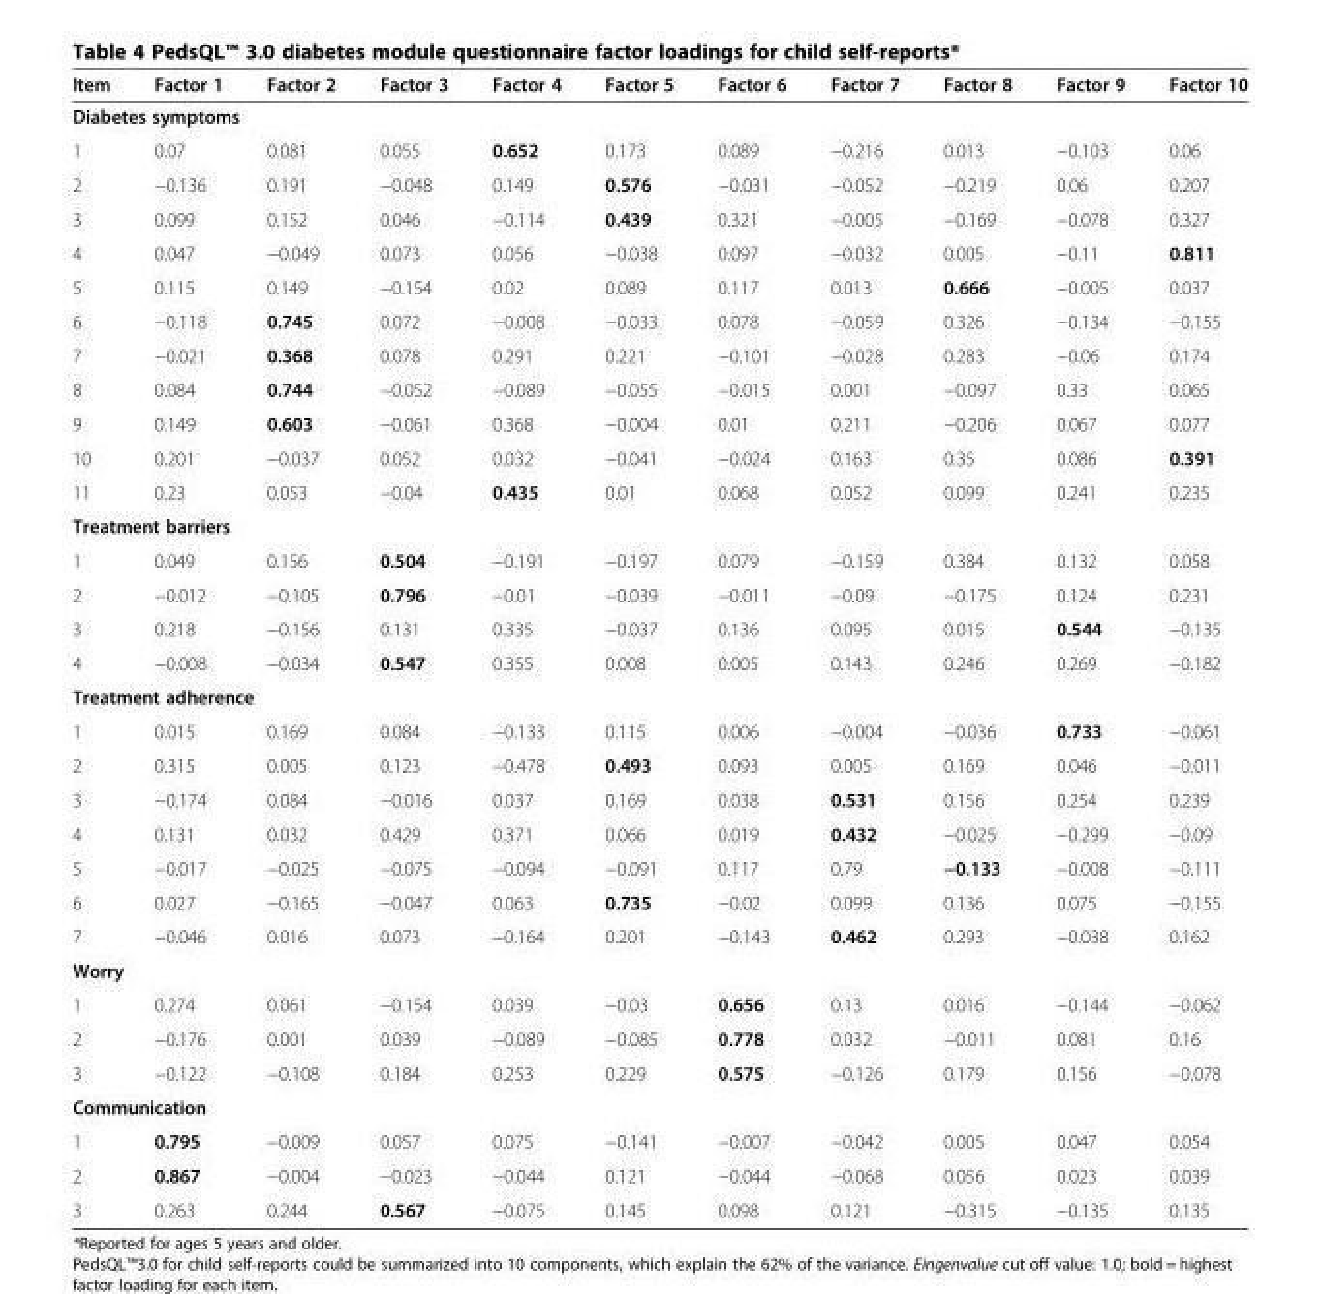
<table><thead><tr><td>Item</td><td>Factor 1</td><td>Factor 2</td><td>Factor 3</td><td>Factor 4</td><td>Factor 5</td><td>Factor 6</td><td>Factor 7</td><td>Factor 8</td><td>Factor 9</td><td>Factor 10</td></tr></thead><tbody><tr><td colspan="11">Diabetes symptoms</td></tr><tr><td>1</td><td>0.07</td><td>0.081</td><td>0.055</td><td>0.652</td><td>0.173</td><td>0.089</td><td>−0.216</td><td>0.013</td><td>−0.103</td><td>0.06</td></tr><tr><td>2</td><td>−0.136</td><td>0.191</td><td>−0.048</td><td>0.149</td><td>0.576</td><td>−0.031</td><td>−0.052</td><td>−0.219</td><td>0.06</td><td>0.207</td></tr><tr><td>3</td><td>0.099</td><td>0.152</td><td>0.046</td><td>−0.114</td><td>0.439</td><td>0.321</td><td>−0.005</td><td>−0.169</td><td>−0.078</td><td>0.327</td></tr><tr><td>4</td><td>0.047</td><td>−0.049</td><td>0.073</td><td>0.056</td><td>−0.038</td><td>0.097</td><td>−0.032</td><td>0.005</td><td>−0.11</td><td>0.811</td></tr><tr><td>5</td><td>0.115</td><td>0.149</td><td>−0.154</td><td>0.02</td><td>0.089</td><td>0.117</td><td>0.013</td><td>0.666</td><td>−0.005</td><td>0.037</td></tr><tr><td>6</td><td>−0.118</td><td>0.745</td><td>0.072</td><td>−0.008</td><td>−0.033</td><td>0.078</td><td>−0.059</td><td>0.326</td><td>−0.134</td><td>−0.155</td></tr><tr><td>7</td><td>−0.021</td><td>0.368</td><td>0.078</td><td>0.291</td><td>0.221</td><td>−0.101</td><td>−0.028</td><td>0.283</td><td>−0.06</td><td>0.174</td></tr><tr><td>8</td><td>0.084</td><td>0.744</td><td>−0.052</td><td>−0.089</td><td>−0.055</td><td>−0.015</td><td>0.001</td><td>−0.097</td><td>0.33</td><td>0.065</td></tr><tr><td>9</td><td>0.149</td><td>0.603</td><td>−0.061</td><td>0.368</td><td>−0.004</td><td>0.01</td><td>0.211</td><td>−0.206</td><td>0.067</td><td>0.077</td></tr><tr><td>10</td><td>0.201</td><td>−0.037</td><td>0.052</td><td>0.032</td><td>−0.041</td><td>−0.024</td><td>0.163</td><td>0.35</td><td>0.086</td><td>0.391</td></tr><tr><td>11</td><td>0.23</td><td>0.053</td><td>−0.04</td><td>0.435</td><td>0.01</td><td>0.068</td><td>0.052</td><td>0.099</td><td>0.241</td><td>0.235</td></tr><tr><td colspan="11">Treatment barriers</td></tr><tr><td>1</td><td>0.049</td><td>0.156</td><td>0.504</td><td>−0.191</td><td>−0.197</td><td>0.079</td><td>−0.159</td><td>0.384</td><td>0.132</td><td>0.058</td></tr><tr><td>2</td><td>−0.012</td><td>−0.105</td><td>0.796</td><td>−0.01</td><td>−0.039</td><td>−0.011</td><td>−0.09</td><td>−0.175</td><td>0.124</td><td>0.231</td></tr><tr><td>3</td><td>0.218</td><td>−0.156</td><td>0.131</td><td>0.335</td><td>−0.037</td><td>0.136</td><td>0.095</td><td>0.015</td><td>0.544</td><td>−0.135</td></tr><tr><td>4</td><td>−0.008</td><td>−0.034</td><td>0.547</td><td>0.355</td><td>0.008</td><td>0.005</td><td>0.143</td><td>0.246</td><td>0.269</td><td>−0.182</td></tr><tr><td colspan="11">Treatment adherence</td></tr><tr><td>1</td><td>0.015</td><td>0.169</td><td>0.084</td><td>−0.133</td><td>0.115</td><td>0.006</td><td>−0.004</td><td>−0.036</td><td>0.733</td><td>−0.061</td></tr><tr><td>2</td><td>0.315</td><td>0.005</td><td>0.123</td><td>−0.478</td><td>0.493</td><td>0.093</td><td>0.005</td><td>0.169</td><td>0.046</td><td>−0.011</td></tr><tr><td>3</td><td>−0.174</td><td>0.084</td><td>−0.016</td><td>0.037</td><td>0.169</td><td>0.038</td><td>0.531</td><td>0.156</td><td>0.254</td><td>0.239</td></tr><tr><td>4</td><td>0.131</td><td>0.032</td><td>0.429</td><td>0.371</td><td>0.066</td><td>0.019</td><td>0.432</td><td>−0.025</td><td>−0.299</td><td>−0.09</td></tr><tr><td>5</td><td>−0.017</td><td>−0.025</td><td>−0.075</td><td>−0.094</td><td>−0.091</td><td>0.117</td><td>0.79</td><td>−0.133</td><td>−0.008</td><td>−0.111</td></tr><tr><td>6</td><td>0.027</td><td>−0.165</td><td>−0.047</td><td>0.063</td><td>0.735</td><td>−0.02</td><td>0.099</td><td>0.136</td><td>0.075</td><td>−0.155</td></tr><tr><td>7</td><td>−0.046</td><td>0.016</td><td>0.073</td><td>−0.164</td><td>0.201</td><td>−0.143</td><td>0.462</td><td>0.293</td><td>−0.038</td><td>0.162</td></tr><tr><td colspan="11">Worry</td></tr><tr><td>1</td><td>0.274</td><td>0.061</td><td>−0.154</td><td>0.039</td><td>−0.03</td><td>0.656</td><td>0.13</td><td>0.016</td><td>−0.144</td><td>−0.062</td></tr><tr><td>2</td><td>−0.176</td><td>0.001</td><td>0.039</td><td>−0.089</td><td>−0.085</td><td>0.778</td><td>0.032</td><td>−0.011</td><td>0.081</td><td>0.16</td></tr><tr><td>3</td><td>−0.122</td><td>−0.108</td><td>0.184</td><td>0.253</td><td>0.229</td><td>0.575</td><td>−0.126</td><td>0.179</td><td>0.156</td><td>−0.078</td></tr><tr><td colspan="11">Communication</td></tr><tr><td>1</td><td>0.795</td><td>−0.009</td><td>0.057</td><td>0.075</td><td>−0.141</td><td>−0.007</td><td>−0.042</td><td>0.005</td><td>0.047</td><td>0.054</td></tr><tr><td>2</td><td>0.867</td><td>−0.004</td><td>−0.023</td><td>−0.044</td><td>0.121</td><td>−0.044</td><td>−0.068</td><td>0.056</td><td>0.023</td><td>0.039</td></tr><tr><td>3</td><td>0.263</td><td>0.244</td><td>0.567</td><td>−0.075</td><td>0.145</td><td>0.098</td><td>0.121</td><td>−0.315</td><td>−0.135</td><td>0.135</td></tr></tbody></table>